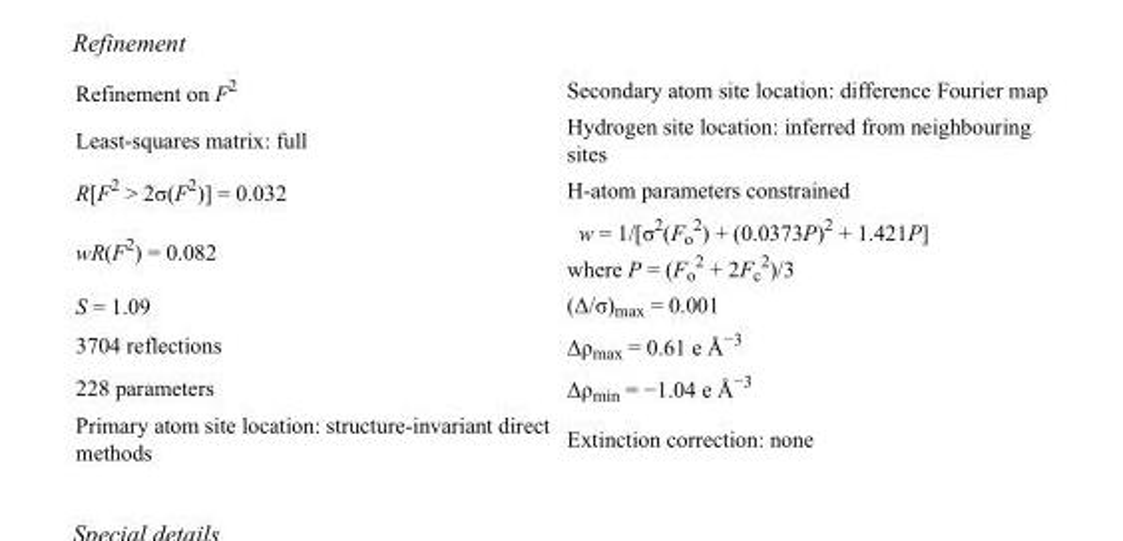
<table><tbody><tr><td>Refinement on F<sup>2</sup></td><td>Secondary atom site location: difference Fourier map</td></tr><tr><td>Least-squares matrix: full</td><td>Hydrogen site location: inferred from neighbouring sites</td></tr><tr><td>R[F<sup>2</sup> &gt; 2σ(F<sup>2</sup>)] = 0.032</td><td>H-atom parameters constrained</td></tr><tr><td>wR(F<sup>2</sup>) = 0.082</td><td>w = 1/[σ<sup>2</sup>(F<sub>o</sub> <sup>2</sup>) + (0.0373P)<sup>2</sup> + 1.421P] where P = (F<sub>o</sub> <sup>2</sup> + 2F<sub>c</sub> <sup>2</sup>)/3</td></tr><tr><td>S = 1.09</td><td>(Δ/σ)<sub>max</sub> = 0.001</td></tr><tr><td>3704 reflections</td><td>Δρ<sub>max</sub> = 0.61 e Å<sup>−3</sup></td></tr><tr><td>228 parameters</td><td>Δρ<sub>min</sub> = −1.04 e Å<sup>−3</sup></td></tr><tr><td>Primary atom site location: structure-invariant direct methods</td><td>Extinction correction: none</td></tr></tbody></table>